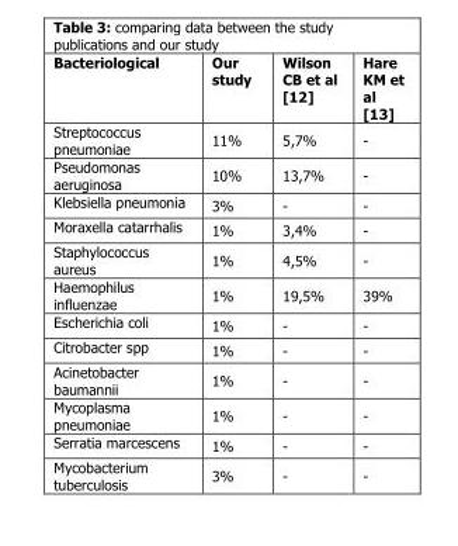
<table><thead><tr><td>Bacteriological</td><td>Our study</td><td>Wilson CB et al [12]</td><td>Hare KM et al [13]</td></tr></thead><tbody><tr><td>Streptococcus pneumoniae</td><td>11%</td><td>5,7%</td><td>-</td></tr><tr><td>Pseudomonas aeruginosa</td><td>10%</td><td>13,7%</td><td>-</td></tr><tr><td>Klebsiella pneumonia</td><td>3%</td><td>-</td><td>-</td></tr><tr><td>Moraxella catarrhalis</td><td>1%</td><td>3,4%</td><td>-</td></tr><tr><td>Staphylococcus aureus</td><td>1%</td><td>4,5%</td><td>-</td></tr><tr><td>Haemophilus influenzae</td><td>1%</td><td>19,5%</td><td>39%</td></tr><tr><td>Escherichia coli</td><td>1%</td><td>-</td><td>-</td></tr><tr><td>Citrobacter spp</td><td>1%</td><td>-</td><td>-</td></tr><tr><td>Acinetobacter baumannii</td><td>1%</td><td>-</td><td>-</td></tr><tr><td>Mycoplasma pneumoniae</td><td>1%</td><td>-</td><td>-</td></tr><tr><td>Serratia marcescens</td><td>1%</td><td>-</td><td>-</td></tr><tr><td>Mycobacterium tuberculosis</td><td>3%</td><td>-</td><td>-</td></tr></tbody></table>